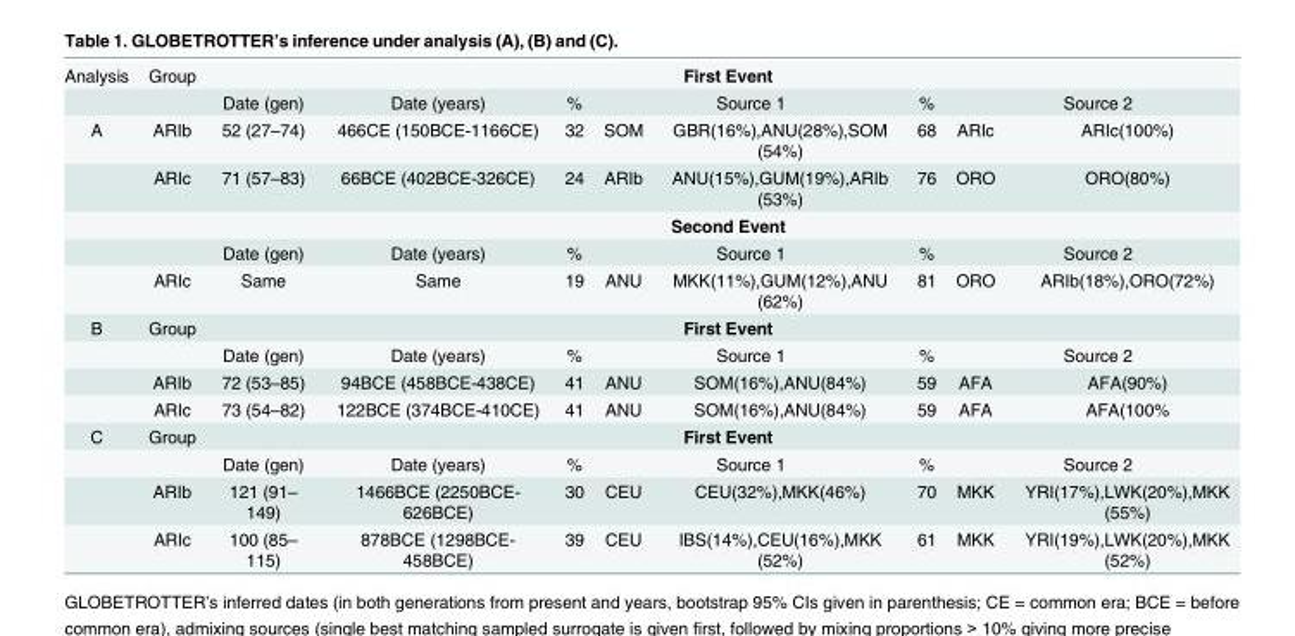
<table><tbody><tr><td rowspan="2">Analysis</td><td>Group</td><td colspan="8">First Event</td></tr><tr><td></td><td>Date (gen)</td><td>Date (years)</td><td>%</td><td colspan="2">Source 1</td><td>%</td><td colspan="2">Source 2</td></tr><tr><td rowspan="5">A</td><td>ARIb</td><td>52 (27–74)</td><td>466CE (150BCE-1166CE)</td><td>32</td><td>SOM</td><td>GBR(16%),ANU(28%),SOM (54%)</td><td>68</td><td>ARIc</td><td>ARIc(100%)</td></tr><tr><td>ARIc</td><td>71 (57–83)</td><td>66BCE (402BCE-326CE)</td><td>24</td><td>ARIb</td><td>ANU(15%),GUM(19%),ARIb (53%)</td><td>76</td><td>ORO</td><td>ORO(80%)</td></tr><tr><td></td><td colspan="8">Second Event</td></tr><tr><td></td><td>Date (gen)</td><td>Date (years)</td><td>%</td><td colspan="2">Source 1</td><td>%</td><td colspan="2">Source 2</td></tr><tr><td>ARIc</td><td>Same</td><td>Same</td><td>19</td><td>ANU</td><td>MKK(11%),GUM(12%),ANU (62%)</td><td>81</td><td>ORO</td><td>ARIb(18%),ORO(72%)</td></tr><tr><td rowspan="4">B</td><td>Group</td><td colspan="8">First Event</td></tr><tr><td></td><td>Date (gen)</td><td>Date (years)</td><td>%</td><td colspan="2">Source 1</td><td>%</td><td colspan="2">Source 2</td></tr><tr><td>ARIb</td><td>72 (53–85)</td><td>94BCE (458BCE-438CE)</td><td>41</td><td>ANU</td><td>SOM(16%),ANU(84%)</td><td>59</td><td>AFA</td><td>AFA(90%)</td></tr><tr><td>ARIc</td><td>73 (54–82)</td><td>122BCE (374BCE-410CE)</td><td>41</td><td>ANU</td><td>SOM(16%),ANU(84%)</td><td>59</td><td>AFA</td><td>AFA(100%</td></tr><tr><td rowspan="4">C</td><td>Group</td><td colspan="8">First Event</td></tr><tr><td></td><td>Date (gen)</td><td>Date (years)</td><td>%</td><td colspan="2">Source 1</td><td>%</td><td colspan="2">Source 2</td></tr><tr><td>ARIb</td><td>121 (91– 149)</td><td>1466BCE (2250BCE- 626BCE)</td><td>30</td><td>CEU</td><td>CEU(32%),MKK(46%)</td><td>70</td><td>MKK</td><td>YRI(17%),LWK(20%),MKK (55%)</td></tr><tr><td>ARIc</td><td>100 (85– 115)</td><td>878BCE (1298BCE- 458BCE)</td><td>39</td><td>CEU</td><td>IBS(14%),CEU(16%),MKK (52%)</td><td>61</td><td>MKK</td><td>YRI(19%),LWK(20%),MKK (52%)</td></tr></tbody></table>